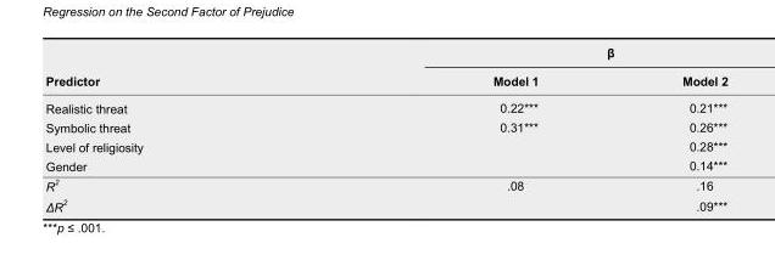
<table><thead><tr><td rowspan="2">Predictor</td><td colspan="2">β</td></tr><tr><td>Model 1</td><td>Model 2</td></tr></thead><tbody><tr><td>Realistic threat</td><td>0.22***</td><td>0.21***</td></tr><tr><td>Symbolic threat</td><td>0.31***</td><td>0.26***</td></tr><tr><td>Level of religiosity</td><td></td><td>0.28***</td></tr><tr><td>Gender</td><td></td><td>0.14***</td></tr><tr><td>R <sup>2</sup></td><td>.08</td><td>.16</td></tr><tr><td>ΔR <sup>2</sup></td><td></td><td>.09***</td></tr></tbody></table>